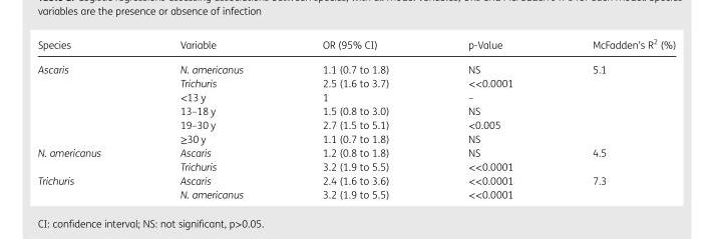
<table><thead><tr><td>Species</td><td>Variable</td><td>OR (95% CI)</td><td>p-Value</td><td>McFadden’s R<sup>2</sup> (%)</td></tr></thead><tbody><tr><td rowspan="6">Ascaris</td><td>N. americanus</td><td>1.1 (0.7 to 1.8)</td><td>NS</td><td>5.1</td></tr><tr><td>Trichuris</td><td>2.5 (1.6 to 3.7)</td><td>&lt;&lt;0.0001</td><td></td></tr><tr><td>&lt;13 y</td><td>1</td><td>–</td><td></td></tr><tr><td>13–18 y</td><td>1.5 (0.8 to 3.0)</td><td>NS</td><td></td></tr><tr><td>19–30 y</td><td>2.7 (1.5 to 5.1)</td><td>&lt;0.005</td><td></td></tr><tr><td>≥30 y</td><td>1.1 (0.7 to 1.8)</td><td>NS</td><td></td></tr><tr><td rowspan="2">N. americanus</td><td>Ascaris</td><td>1.2 (0.8 to 1.8)</td><td>NS</td><td>4.5</td></tr><tr><td>Trichuris</td><td>3.2 (1.9 to 5.5)</td><td>&lt;&lt;0.0001</td><td></td></tr><tr><td rowspan="2">Trichuris</td><td>Ascaris</td><td>2.4 (1.6 to 3.6)</td><td>&lt;&lt;0.0001</td><td>7.3</td></tr><tr><td>N. americanus</td><td>3.2 (1.9 to 5.5)</td><td>&lt;&lt;0.0001</td><td></td></tr></tbody></table>